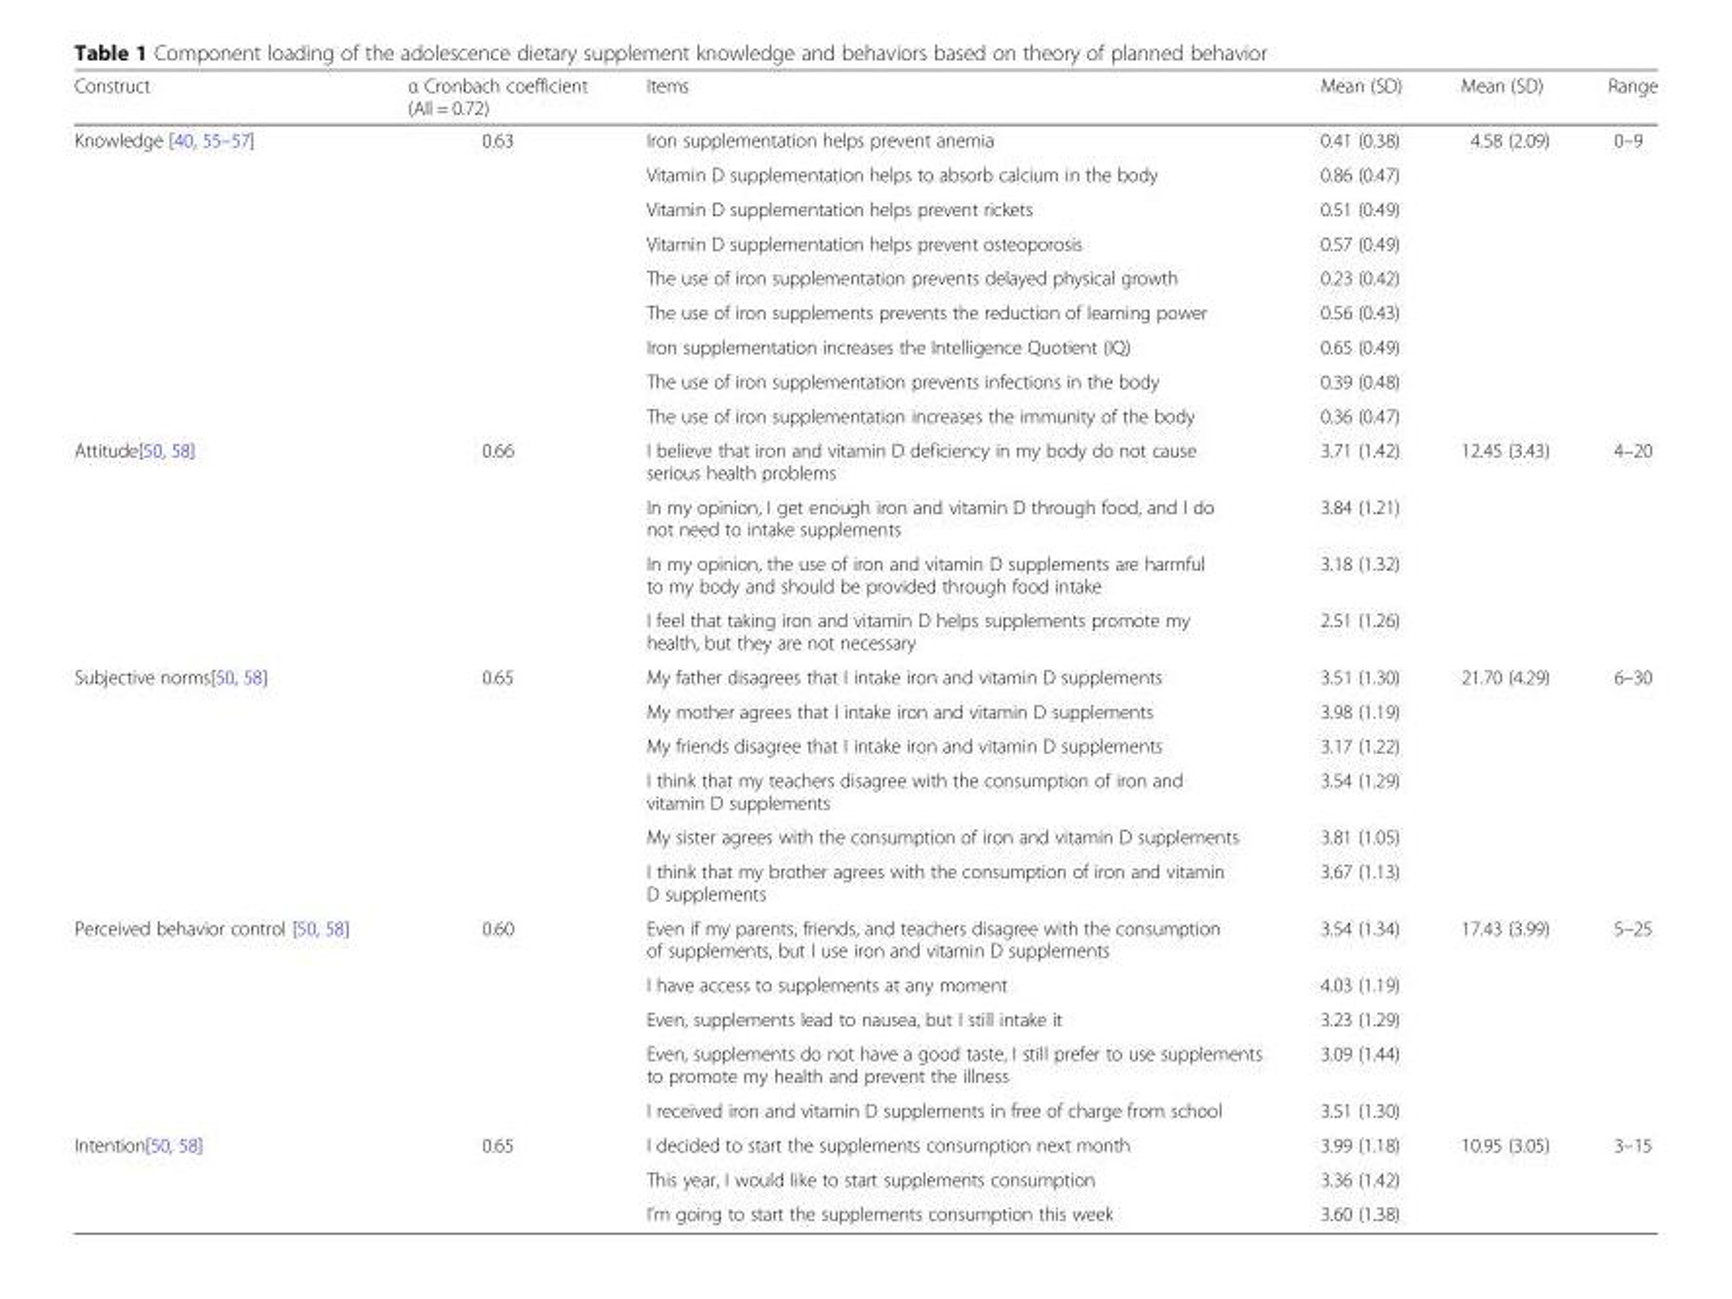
<table><thead><tr><td>Construct</td><td>α Cronbach coefficient (All = 0.72)</td><td>Items</td><td>Mean (SD)</td><td>Mean (SD)</td><td>Range</td></tr></thead><tbody><tr><td rowspan="9">Knowledge [40, 55–57]</td><td rowspan="9">0.63</td><td>Iron supplementation helps prevent anemia</td><td>0.41 (0.38)</td><td rowspan="9">4.58 (2.09)</td><td rowspan="9">0–9</td></tr><tr><td>Vitamin D supplementation helps to absorb calcium in the body</td><td>0.86 (0.47)</td></tr><tr><td>Vitamin D supplementation helps prevent rickets</td><td>0.51 (0.49)</td></tr><tr><td>Vitamin D supplementation helps prevent osteoporosis</td><td>0.57 (0.49)</td></tr><tr><td>The use of iron supplementation prevents delayed physical growth</td><td>0.23 (0.42)</td></tr><tr><td>The use of iron supplements prevents the reduction of learning power</td><td>0.56 (0.43)</td></tr><tr><td>Iron supplementation increases the Intelligence Quotient (IQ)</td><td>0.65 (0.49)</td></tr><tr><td>The use of iron supplementation prevents infections in the body</td><td>0.39 (0.48)</td></tr><tr><td>The use of iron supplementation increases the immunity of the body</td><td>0.36 (0.47)</td></tr><tr><td rowspan="4">Attitude[50, 58]</td><td rowspan="4">0.66</td><td>I believe that iron and vitamin D deficiency in my body do not cause serious health problems</td><td>3.71 (1.42)</td><td rowspan="4">12.45 (3.43)</td><td rowspan="4">4–20</td></tr><tr><td>In my opinion, I get enough iron and vitamin D through food, and I do not need to intake supplements</td><td>3.84 (1.21)</td></tr><tr><td>In my opinion, the use of iron and vitamin D supplements are harmful to my body and should be provided through food intake</td><td>3.18 (1.32)</td></tr><tr><td>I feel that taking iron and vitamin D helps supplements promote my health, but they are not necessary</td><td>2.51 (1.26)</td></tr><tr><td rowspan="6">Subjective norms[50, 58]</td><td rowspan="6">0.65</td><td>My father disagrees that I intake iron and vitamin D supplements</td><td>3.51 (1.30)</td><td rowspan="6">21.70 (4.29)</td><td rowspan="6">6–30</td></tr><tr><td>My mother agrees that I intake iron and vitamin D supplements</td><td>3.98 (1.19)</td></tr><tr><td>My friends disagree that I intake iron and vitamin D supplements</td><td>3.17 (1.22)</td></tr><tr><td>I think that my teachers disagree with the consumption of iron and vitamin D supplements</td><td>3.54 (1.29)</td></tr><tr><td>My sister agrees with the consumption of iron and vitamin D supplements</td><td>3.81 (1.05)</td></tr><tr><td>I think that my brother agrees with the consumption of iron and vitamin D supplements</td><td>3.67 (1.13)</td></tr><tr><td rowspan="5">Perceived behavior control [50, 58]</td><td rowspan="5">0.60</td><td>Even if my parents, friends, and teachers disagree with the consumption of supplements, but I use iron and vitamin D supplements</td><td>3.54 (1.34)</td><td rowspan="5">17.43 (3.99)</td><td rowspan="5">5–25</td></tr><tr><td>I have access to supplements at any moment</td><td>4.03 (1.19)</td></tr><tr><td>Even, supplements lead to nausea, but I still intake it</td><td>3.23 (1.29)</td></tr><tr><td>Even, supplements do not have a good taste, I still prefer to use supplements to promote my health and prevent the illness</td><td>3.09 (1.44)</td></tr><tr><td>I received iron and vitamin D supplements in free of charge from school</td><td>3.51 (1.30)</td></tr><tr><td rowspan="3">Intention[50, 58]</td><td rowspan="3">0.65</td><td>I decided to start the supplements consumption next month</td><td>3.99 (1.18)</td><td rowspan="3">10.95 (3.05)</td><td rowspan="3">3–15</td></tr><tr><td>This year, I would like to start supplements consumption</td><td>3.36 (1.42)</td></tr><tr><td>I’m going to start the supplements consumption this week</td><td>3.60 (1.38)</td></tr></tbody></table>